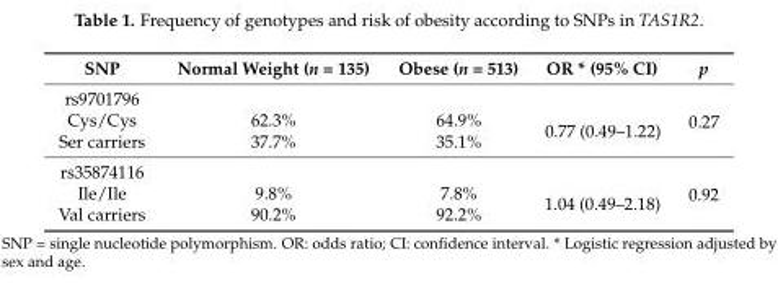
<table><thead><tr><td>SNP</td><td>Normal Weight (n = 135)</td><td>Obese (n = 513)</td><td>OR * (95% CI)</td><td>p</td></tr></thead><tbody><tr><td colspan="4">rs9701796</td><td rowspan="3">0.27</td></tr><tr><td>Cys/Cys</td><td>62.3%</td><td>64.9%</td><td rowspan="2">0.77 (0.49–1.22)</td></tr><tr><td>Ser carriers</td><td>37.7%</td><td>35.1%</td></tr><tr><td colspan="4">rs35874116</td><td rowspan="3">0.92</td></tr><tr><td>Ile/Ile</td><td>9.8%</td><td>7.8%</td><td rowspan="2">1.04 (0.49–2.18)</td></tr><tr><td>Val carriers</td><td>90.2%</td><td>92.2%</td></tr></tbody></table>